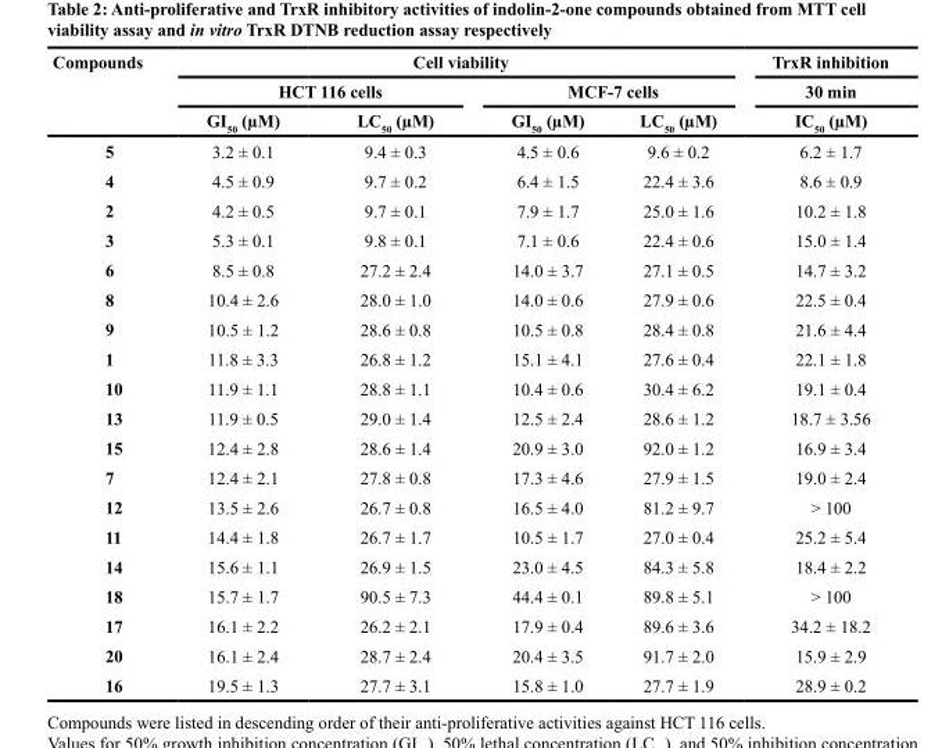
<table><thead><tr><td rowspan="3">Compounds</td><td colspan="4">Cell viability</td><td rowspan="3">TrxR inhibition 30 min IC<sub>50</sub> (µM)</td></tr><tr><td colspan="2">HCT 116 cells</td><td colspan="2">MCF-7 cells</td></tr><tr><td>GI<sub>50</sub> (µM)</td><td>LC<sub>50</sub> (µM)</td><td>GI<sub>50</sub> (µM)</td><td>LC<sub>50</sub> (µM)</td></tr></thead><tbody><tr><td>5</td><td>3.2 ± 0.1</td><td>9.4 ± 0.3</td><td>4.5 ± 0.6</td><td>9.6 ± 0.2</td><td>6.2 ± 1.7</td></tr><tr><td>4</td><td>4.5 ± 0.9</td><td>9.7 ± 0.2</td><td>6.4 ± 1.5</td><td>22.4 ± 3.6</td><td>8.6 ± 0.9</td></tr><tr><td>2</td><td>4.2 ± 0.5</td><td>9.7 ± 0.1</td><td>7.9 ± 1.7</td><td>25.0 ± 1.6</td><td>10.2 ± 1.8</td></tr><tr><td>3</td><td>5.3 ± 0.1</td><td>9.8 ± 0.1</td><td>7.1 ± 0.6</td><td>22.4 ± 0.6</td><td>15.0 ± 1.4</td></tr><tr><td>6</td><td>8.5 ± 0.8</td><td>27.2 ± 2.4</td><td>14.0 ± 3.7</td><td>27.1 ± 0.5</td><td>14.7 ± 3.2</td></tr><tr><td>8</td><td>10.4 ± 2.6</td><td>28.0 ± 1.0</td><td>14.0 ± 0.6</td><td>27.9 ± 0.6</td><td>22.5 ± 0.4</td></tr><tr><td>9</td><td>10.5 ± 1.2</td><td>28.6 ± 0.8</td><td>10.5 ± 0.8</td><td>28.4 ± 0.8</td><td>21.6 ± 4.4</td></tr><tr><td>1</td><td>11.8 ± 3.3</td><td>26.8 ± 1.2</td><td>15.1 ± 4.1</td><td>27.6 ± 0.4</td><td>22.1 ± 1.8</td></tr><tr><td>10</td><td>11.9 ± 1.1</td><td>28.8 ± 1.1</td><td>10.4 ± 0.6</td><td>30.4 ± 6.2</td><td>19.1 ± 0.4</td></tr><tr><td>13</td><td>11.9 ± 0.5</td><td>29.0 ± 1.4</td><td>12.5 ± 2.4</td><td>28.6 ± 1.2</td><td>18.7 ± 3.56</td></tr><tr><td>15</td><td>12.4 ± 2.8</td><td>28.6 ± 1.4</td><td>20.9 ± 3.0</td><td>92.0 ± 1.2</td><td>16.9 ± 3.4</td></tr><tr><td>7</td><td>12.4 ± 2.1</td><td>27.8 ± 0.8</td><td>17.3 ± 4.6</td><td>27.9 ± 1.5</td><td>19.0 ± 2.4</td></tr><tr><td>12</td><td>13.5 ± 2.6</td><td>26.7 ± 0.8</td><td>16.5 ± 4.0</td><td>81.2 ± 9.7</td><td>&gt; 100</td></tr><tr><td>11</td><td>14.4 ± 1.8</td><td>26.7 ± 1.7</td><td>10.5 ± 1.7</td><td>27.0 ± 0.4</td><td>25.2 ± 5.4</td></tr><tr><td>14</td><td>15.6 ± 1.1</td><td>26.9 ± 1.5</td><td>23.0 ± 4.5</td><td>84.3 ± 5.8</td><td>18.4 ± 2.2</td></tr><tr><td>18</td><td>15.7 ± 1.7</td><td>90.5 ± 7.3</td><td>44.4 ± 0.1</td><td>89.8 ± 5.1</td><td>&gt; 100</td></tr><tr><td>17</td><td>16.1 ± 2.2</td><td>26.2 ± 2.1</td><td>17.9 ± 0.4</td><td>89.6 ± 3.6</td><td>34.2 ± 18.2</td></tr><tr><td>20</td><td>16.1 ± 2.4</td><td>28.7 ± 2.4</td><td>20.4 ± 3.5</td><td>91.7 ± 2.0</td><td>15.9 ± 2.9</td></tr><tr><td>16</td><td>19.5 ± 1.3</td><td>27.7 ± 3.1</td><td>15.8 ± 1.0</td><td>27.7 ± 1.9</td><td>28.9 ± 0.2</td></tr></tbody></table>